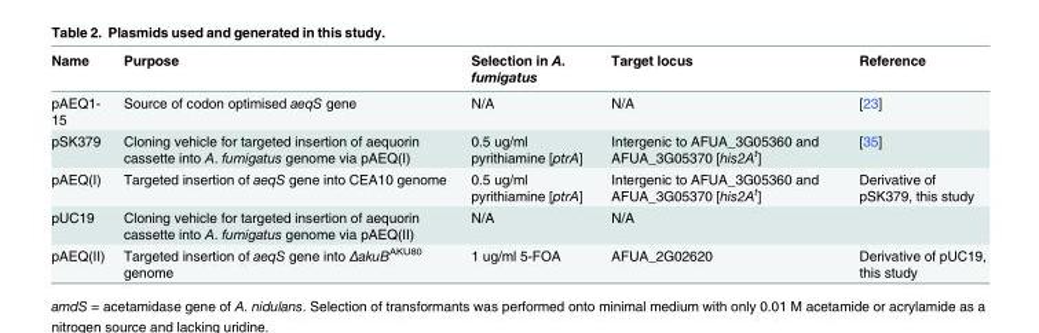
<table><thead><tr><td>Name</td><td>Purpose</td><td>Selection in A. fumigatus</td><td>Target locus</td><td>Reference</td></tr></thead><tbody><tr><td>pAEQ1- 15</td><td>Source of codon optimised aeqS gene</td><td>N/A</td><td>N/A</td><td>[23]</td></tr><tr><td>pSK379</td><td>Cloning vehicle for targeted insertion of aequorin cassette into A. fumigatus genome via pAEQ(I)</td><td>0.5 ug/ml pyrithiamine [ptrA]</td><td>Intergenic to AFUA_3G05360 and AFUA_3G05370 [his2A<sup>t</sup>]</td><td>[35]</td></tr><tr><td>pAEQ(I)</td><td>Targeted insertion of aeqS gene into CEA10 genome</td><td>0.5 ug/ml pyrithiamine [ptrA]</td><td>Intergenic to AFUA_3G05360 and AFUA_3G05370 [his2A<sup>t</sup>]</td><td>Derivative of pSK379, this study</td></tr><tr><td>pUC19</td><td>Cloning vehicle for targeted insertion of aequorin cassette into A. fumigatus genome via pAEQ(II)</td><td>N/A</td><td>N/A</td><td></td></tr><tr><td>pAEQ(II)</td><td>Targeted insertion of aeqS gene into ΔakuB<sup>AKU80</sup> genome</td><td>1 ug/ml 5-FOA</td><td>AFUA_2G02620</td><td>Derivative of pUC19, this study</td></tr></tbody></table>